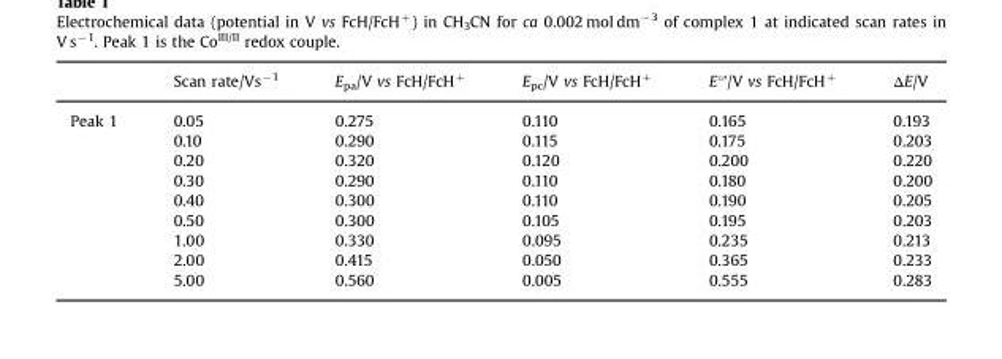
<table><thead><tr><td></td><td>Scan rate/Vs<sup>−1</sup></td><td>E<sub>pa</sub>/V vs FcH/FcH<sup>+</sup></td><td>E<sub>pc</sub>/V vs FcH/FcH<sup>+</sup></td><td>E°&#x27;/V vs FcH/FcH+</td><td>ΔE/V</td></tr></thead><tbody><tr><td rowspan="9">Peak 1</td><td>0.05</td><td>0.275</td><td>0.110</td><td>0.165</td><td>0.193</td></tr><tr><td>0.10</td><td>0.290</td><td>0.115</td><td>0.175</td><td>0.203</td></tr><tr><td>0.20</td><td>0.320</td><td>0.120</td><td>0.200</td><td>0.220</td></tr><tr><td>0.30</td><td>0.290</td><td>0.110</td><td>0.180</td><td>0.200</td></tr><tr><td>0.40</td><td>0.300</td><td>0.110</td><td>0.190</td><td>0.205</td></tr><tr><td>0.50</td><td>0.300</td><td>0.105</td><td>0.195</td><td>0.203</td></tr><tr><td>1.00</td><td>0.330</td><td>0.095</td><td>0.235</td><td>0.213</td></tr><tr><td>2.00</td><td>0.415</td><td>0.050</td><td>0.365</td><td>0.233</td></tr><tr><td>5.00</td><td>0.560</td><td>0.005</td><td>0.555</td><td>0.283</td></tr></tbody></table>